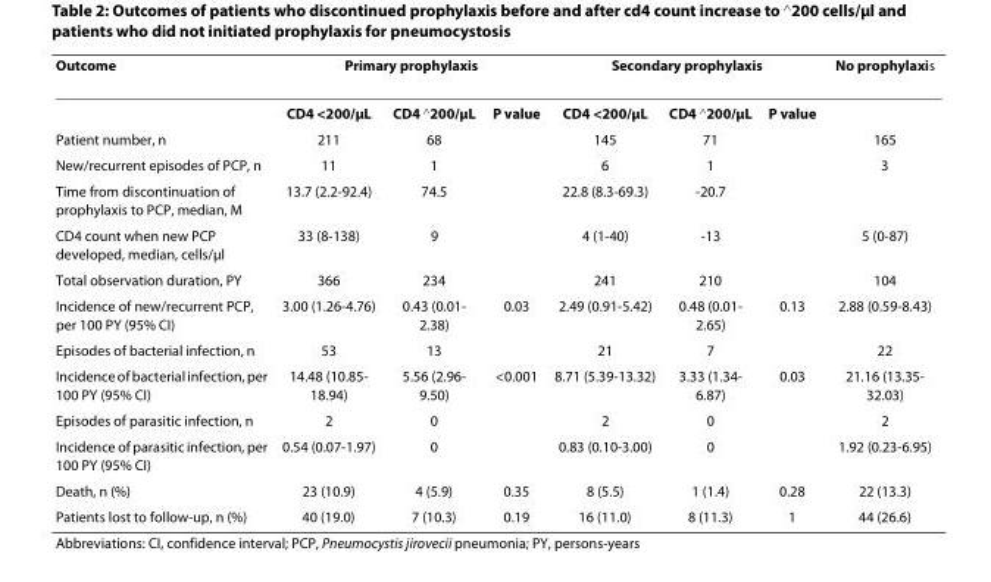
<table><thead><tr><td rowspan="2">Outcome</td><td colspan="3">Primary prophylaxis</td><td colspan="3">Secondary prophylaxis</td><td rowspan="2">No prophylaxis</td></tr><tr><td>CD4 &lt;200/μL</td><td>CD4 ≧200/μL</td><td>P value</td><td>CD4 &lt;200/μL</td><td>CD4 ≧200/μL</td><td>P value</td></tr></thead><tbody><tr><td>Patient number, n</td><td>211</td><td>68</td><td></td><td>145</td><td>71</td><td></td><td>165</td></tr><tr><td>New/recurrent episodes of PCP, n</td><td>11</td><td>1</td><td></td><td>6</td><td>1</td><td></td><td>3</td></tr><tr><td>Time from discontinuation of prophylaxis to PCP, median, M</td><td>13.7 (2.2-92.4)</td><td>74.5</td><td></td><td>22.8 (8.3-69.3)</td><td>-20.7</td><td></td><td></td></tr><tr><td>CD4 count when new PCP developed, median, cells/μl</td><td>33 (8-138)</td><td>9</td><td></td><td>4 (1-40)</td><td>-13</td><td></td><td>5 (0-87)</td></tr><tr><td>Total observation duration, PY</td><td>366</td><td>234</td><td></td><td>241</td><td>210</td><td></td><td>104</td></tr><tr><td>Incidence of new/recurrent PCP, per 100 PY (95% CI)</td><td>3.00 (1.26-4.76)</td><td>0.43 (0.01- 2.38)</td><td>0.03</td><td>2.49 (0.91-5.42)</td><td>0.48 (0.01- 2.65)</td><td>0.13</td><td>2.88 (0.59-8.43)</td></tr><tr><td>Episodes of bacterial infection, n</td><td>53</td><td>13</td><td></td><td>21</td><td>7</td><td></td><td>22</td></tr><tr><td>Incidence of bacterial infection, per 100 PY (95% CI)</td><td>14.48 (10.85- 18.94)</td><td>5.56 (2.96- 9.50)</td><td>&lt;0.001</td><td>8.71 (5.39-13.32)</td><td>3.33 (1.34- 6.87)</td><td>0.03</td><td>21.16 (13.35- 32.03)</td></tr><tr><td>Episodes of parasitic infection, n</td><td>2</td><td>0</td><td></td><td>2</td><td>0</td><td></td><td>2</td></tr><tr><td>Incidence of parasitic infection, per 100 PY (95% CI)</td><td>0.54 (0.07-1.97)</td><td>0</td><td></td><td>0.83 (0.10-3.00)</td><td>0</td><td></td><td>1.92 (0.23-6.95)</td></tr><tr><td>Death, n (%)</td><td>23 (10.9)</td><td>4 (5.9)</td><td>0.35</td><td>8 (5.5)</td><td>1 (1.4)</td><td>0.28</td><td>22 (13.3)</td></tr><tr><td>Patients lost to follow-up, n (%)</td><td>40 (19.0)</td><td>7 (10.3)</td><td>0.19</td><td>16 (11.0)</td><td>8 (11.3)</td><td>1</td><td>44 (26.6)</td></tr></tbody></table>